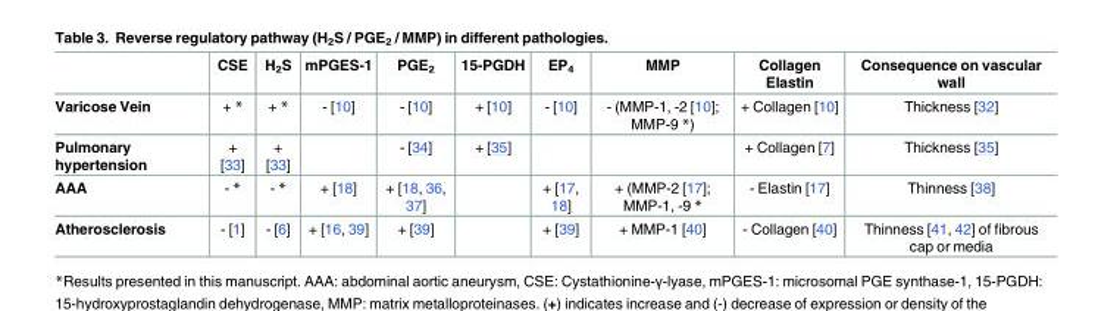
<table><thead><tr><td></td><td>CSE</td><td>H<sub>2</sub>S</td><td>mPGES-1</td><td>PGE<sub>2</sub></td><td>15-PGDH</td><td>EP<sub>4</sub></td><td>MMP</td><td>Collagen Elastin</td><td>Consequence on vascular wall</td></tr></thead><tbody><tr><td>Varicose Vein</td><td>+ *</td><td>+ *</td><td>- [10]</td><td>- [10]</td><td>+ [10]</td><td>- [10]</td><td>- (MMP-1, -2 [10]; MMP-9 *)</td><td>+ Collagen [10]</td><td>Thickness [32]</td></tr><tr><td>Pulmonary hypertension</td><td>+ [33]</td><td>+ [33]</td><td></td><td>- [34]</td><td>+ [35]</td><td></td><td></td><td>+ Collagen [7]</td><td>Thickness [35]</td></tr><tr><td>AAA</td><td>- *</td><td>- *</td><td>+ [18]</td><td>+ [18, 36, 37]</td><td></td><td>+ [17, 18]</td><td>+ (MMP-2 [17]; MMP-1, -9 *</td><td>- Elastin [17]</td><td>Thinness [38]</td></tr><tr><td>Atherosclerosis</td><td>- [1]</td><td>- [6]</td><td>+ [16, 39]</td><td>+ [39]</td><td></td><td>+ [39]</td><td>+ MMP-1 [40]</td><td>- Collagen [40]</td><td>Thinness [41, 42] of fibrous cap or media</td></tr></tbody></table>